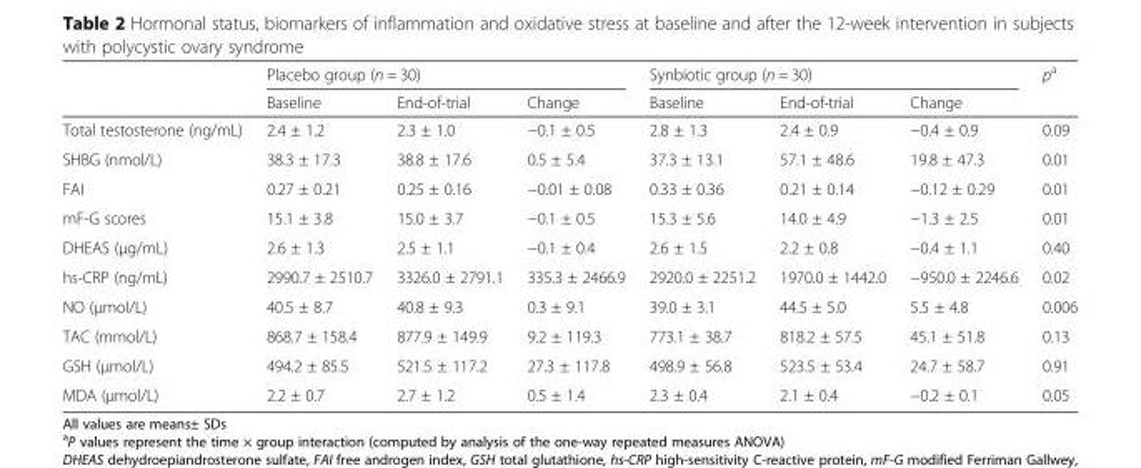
<table><thead><tr><td rowspan="2"></td><td colspan="3">Placebo group (n = 30)</td><td colspan="3">Synbiotic group (n = 30)</td><td rowspan="2">p<sup>a</sup></td></tr><tr><td>Baseline</td><td>End-of-trial</td><td>Change</td><td>Baseline</td><td>End-of-trial</td><td>Change</td></tr></thead><tbody><tr><td>Total testosterone (ng/mL)</td><td>2.4 ± 1.2</td><td>2.3 ± 1.0</td><td>−0.1 ± 0.5</td><td>2.8 ± 1.3</td><td>2.4 ± 0.9</td><td>−0.4 ± 0.9</td><td>0.09</td></tr><tr><td>SHBG (nmol/L)</td><td>38.3 ± 17.3</td><td>38.8 ± 17.6</td><td>0.5 ± 5.4</td><td>37.3 ± 13.1</td><td>57.1 ± 48.6</td><td>19.8 ± 47.3</td><td>0.01</td></tr><tr><td>FAI</td><td>0.27 ± 0.21</td><td>0.25 ± 0.16</td><td>−0.01 ± 0.08</td><td>0.33 ± 0.36</td><td>0.21 ± 0.14</td><td>−0.12 ± 0.29</td><td>0.01</td></tr><tr><td>mF-G scores</td><td>15.1 ± 3.8</td><td>15.0 ± 3.7</td><td>−0.1 ± 0.5</td><td>15.3 ± 5.6</td><td>14.0 ± 4.9</td><td>−1.3 ± 2.5</td><td>0.01</td></tr><tr><td>DHEAS (μg/mL)</td><td>2.6 ± 1.3</td><td>2.5 ± 1.1</td><td>−0.1 ± 0.4</td><td>2.6 ± 1.5</td><td>2.2 ± 0.8</td><td>−0.4 ± 1.1</td><td>0.40</td></tr><tr><td>hs-CRP (ng/mL)</td><td>2990.7 ± 2510.7</td><td>3326.0 ± 2791.1</td><td>335.3 ± 2466.9</td><td>2920.0 ± 2251.2</td><td>1970.0 ± 1442.0</td><td>−950.0 ± 2246.6</td><td>0.02</td></tr><tr><td>NO (μmol/L)</td><td>40.5 ± 8.7</td><td>40.8 ± 9.3</td><td>0.3 ± 9.1</td><td>39.0 ± 3.1</td><td>44.5 ± 5.0</td><td>5.5 ± 4.8</td><td>0.006</td></tr><tr><td>TAC (mmol/L)</td><td>868.7 ± 158.4</td><td>877.9 ± 149.9</td><td>9.2 ± 119.3</td><td>773.1 ± 38.7</td><td>818.2 ± 57.5</td><td>45.1 ± 51.8</td><td>0.13</td></tr><tr><td>GSH (μmol/L)</td><td>494.2 ± 85.5</td><td>521.5 ± 117.2</td><td>27.3 ± 117.8</td><td>498.9 ± 56.8</td><td>523.5 ± 53.4</td><td>24.7 ± 58.7</td><td>0.91</td></tr><tr><td>MDA (μmol/L)</td><td>2.2 ± 0.7</td><td>2.7 ± 1.2</td><td>0.5 ± 1.4</td><td>2.3 ± 0.4</td><td>2.1 ± 0.4</td><td>−0.2 ± 0.1</td><td>0.05</td></tr></tbody></table>